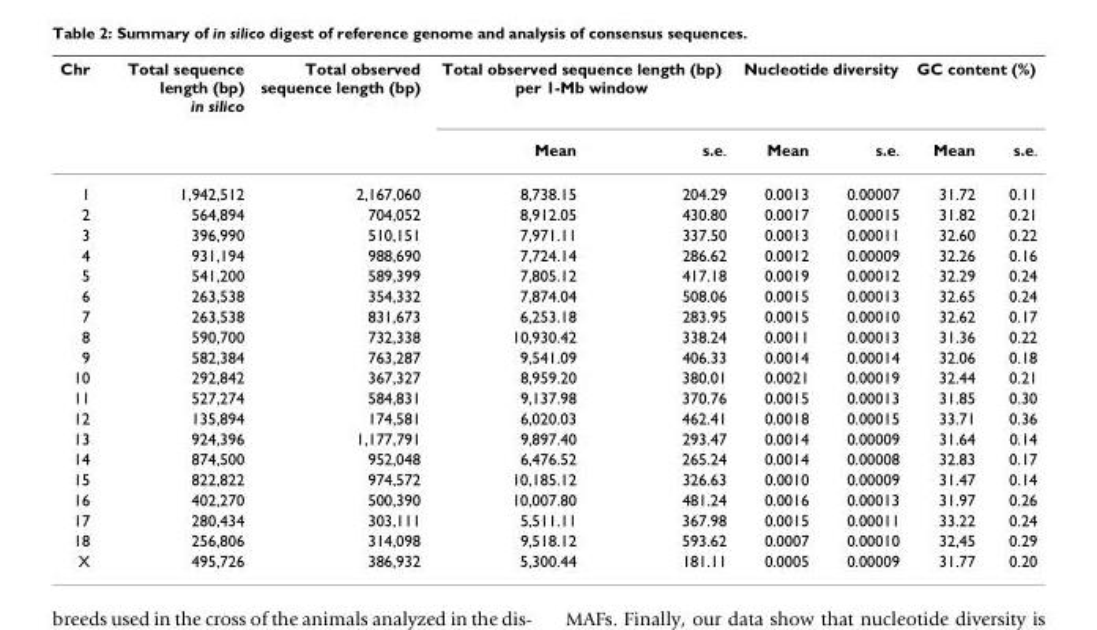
<table><thead><tr><td rowspan="2">Chr</td><td rowspan="2">Total sequence length (bp) in silico</td><td rowspan="2">Total observed sequence length (bp)</td><td colspan="2">Total observed sequence length (bp) per 1-Mb window</td><td colspan="2">Nucleotide diversity</td><td colspan="2">GC content (%)</td></tr><tr><td>Mean</td><td>s.e.</td><td>Mean</td><td>s.e.</td><td>Mean</td><td>s.e.</td></tr></thead><tbody><tr><td>1</td><td>1,942,512</td><td>2,167,060</td><td>8,738.15</td><td>204.29</td><td>0.0013</td><td>0.00007</td><td>31.72</td><td>0.11</td></tr><tr><td>2</td><td>564,894</td><td>704,052</td><td>8,912.05</td><td>430.80</td><td>0.0017</td><td>0.00015</td><td>31.82</td><td>0.21</td></tr><tr><td>3</td><td>396,990</td><td>510,151</td><td>7,971.11</td><td>337.50</td><td>0.0013</td><td>0.00011</td><td>32.60</td><td>0.22</td></tr><tr><td>4</td><td>931,194</td><td>988,690</td><td>7,724.14</td><td>286.62</td><td>0.0012</td><td>0.00009</td><td>32.26</td><td>0.16</td></tr><tr><td>5</td><td>541,200</td><td>589,399</td><td>7,805.12</td><td>417.18</td><td>0.0019</td><td>0.00012</td><td>32.29</td><td>0.24</td></tr><tr><td>6</td><td>263,538</td><td>354,332</td><td>7,874.04</td><td>508.06</td><td>0.0015</td><td>0.00013</td><td>32.65</td><td>0.24</td></tr><tr><td>7</td><td>263,538</td><td>831,673</td><td>6,253.18</td><td>283.95</td><td>0.0015</td><td>0.00010</td><td>32.62</td><td>0.17</td></tr><tr><td>8</td><td>590,700</td><td>732,338</td><td>10,930.42</td><td>338.24</td><td>0.0011</td><td>0.00013</td><td>31.36</td><td>0.22</td></tr><tr><td>9</td><td>582,384</td><td>763,287</td><td>9,541.09</td><td>406.33</td><td>0.0014</td><td>0.00014</td><td>32.06</td><td>0.18</td></tr><tr><td>10</td><td>292,842</td><td>367,327</td><td>8,959.20</td><td>380.01</td><td>0.0021</td><td>0.00019</td><td>32.44</td><td>0.21</td></tr><tr><td>11</td><td>527,274</td><td>584,831</td><td>9,137.98</td><td>370.76</td><td>0.0015</td><td>0.00013</td><td>31.85</td><td>0.30</td></tr><tr><td>12</td><td>135,894</td><td>174,581</td><td>6,020.03</td><td>462.41</td><td>0.0018</td><td>0.00015</td><td>33.71</td><td>0.36</td></tr><tr><td>13</td><td>924,396</td><td>1,177,791</td><td>9,897.40</td><td>293.47</td><td>0.0014</td><td>0.00009</td><td>31.64</td><td>0.14</td></tr><tr><td>14</td><td>874,500</td><td>952,048</td><td>6,476.52</td><td>265.24</td><td>0.0014</td><td>0.00008</td><td>32.83</td><td>0.17</td></tr><tr><td>15</td><td>822,822</td><td>974,572</td><td>10,185.12</td><td>326.63</td><td>0.0010</td><td>0.00009</td><td>31.47</td><td>0.14</td></tr><tr><td>16</td><td>402,270</td><td>500,390</td><td>10,007.80</td><td>481.24</td><td>0.0016</td><td>0.00013</td><td>31.97</td><td>0.26</td></tr><tr><td>17</td><td>280,434</td><td>303,111</td><td>5,511.11</td><td>367.98</td><td>0.0015</td><td>0.00011</td><td>33.22</td><td>0.24</td></tr><tr><td>18</td><td>256,806</td><td>314,098</td><td>9,518.12</td><td>593.62</td><td>0.0007</td><td>0.00010</td><td>32,45</td><td>0.29</td></tr><tr><td>X</td><td>495,726</td><td>386,932</td><td>5,300.44</td><td>181.11</td><td>0.0005</td><td>0.00009</td><td>31.77</td><td>0.20</td></tr></tbody></table>